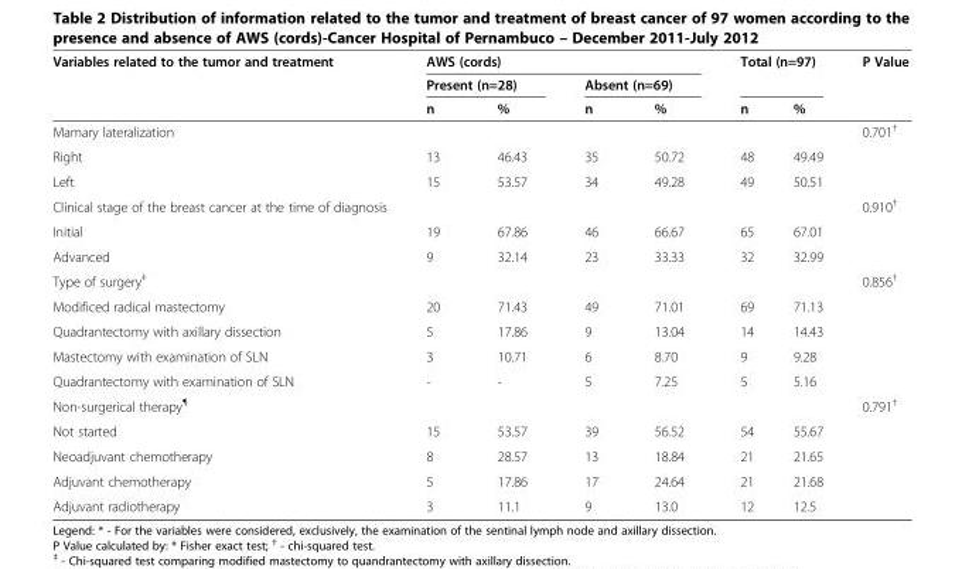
<table><thead><tr><td rowspan="3">Variables related to the tumor and treatment</td><td colspan="4">AWS (cords)</td><td rowspan="2" colspan="2">Total (n=97)</td><td rowspan="3">P Value</td></tr><tr><td colspan="2">Present (n=28)</td><td colspan="2">Absent (n=69)</td></tr><tr><td>n</td><td>%</td><td>n</td><td>%</td><td>n</td><td>%</td></tr></thead><tbody><tr><td>Mamary lateralization</td><td></td><td></td><td></td><td></td><td></td><td></td><td>0.701<sup>†</sup></td></tr><tr><td>Right</td><td>13</td><td>46.43</td><td>35</td><td>50.72</td><td>48</td><td>49.49</td><td></td></tr><tr><td>Left</td><td>15</td><td>53.57</td><td>34</td><td>49.28</td><td>49</td><td>50.51</td><td></td></tr><tr><td>Clinical stage of the breast cancer at the time of diagnosis</td><td></td><td></td><td></td><td></td><td></td><td></td><td>0.910<sup>†</sup></td></tr><tr><td>Initial</td><td>19</td><td>67.86</td><td>46</td><td>66.67</td><td>65</td><td>67.01</td><td></td></tr><tr><td>Advanced</td><td>9</td><td>32.14</td><td>23</td><td>33.33</td><td>32</td><td>32.99</td><td></td></tr><tr><td>Type of surgery<sup>‡</sup></td><td></td><td></td><td></td><td></td><td></td><td></td><td>0.856<sup>†</sup></td></tr><tr><td>Modificed radical mastectomy</td><td>20</td><td>71.43</td><td>49</td><td>71.01</td><td>69</td><td>71.13</td><td></td></tr><tr><td>Quadrantectomy with axillary dissection</td><td>5</td><td>17.86</td><td>9</td><td>13.04</td><td>14</td><td>14.43</td><td></td></tr><tr><td>Mastectomy with examination of SLN</td><td>3</td><td>10.71</td><td>6</td><td>8.70</td><td>9</td><td>9.28</td><td></td></tr><tr><td>Quadrantectomy with examination of SLN</td><td>-</td><td>-</td><td>5</td><td>7.25</td><td>5</td><td>5.16</td><td></td></tr><tr><td>Non-surgerical therapy<sup>¶</sup></td><td></td><td></td><td></td><td></td><td></td><td></td><td>0.791<sup>†</sup></td></tr><tr><td>Not started</td><td>15</td><td>53.57</td><td>39</td><td>56.52</td><td>54</td><td>55.67</td><td></td></tr><tr><td>Neoadjuvant chemotherapy</td><td>8</td><td>28.57</td><td>13</td><td>18.84</td><td>21</td><td>21.65</td><td></td></tr><tr><td>Adjuvant chemotherapy</td><td>5</td><td>17.86</td><td>17</td><td>24.64</td><td>21</td><td>21.68</td><td></td></tr><tr><td>Adjuvant radiotherapy</td><td>3</td><td>11.1</td><td>9</td><td>13.0</td><td>12</td><td>12.5</td><td></td></tr></tbody></table>